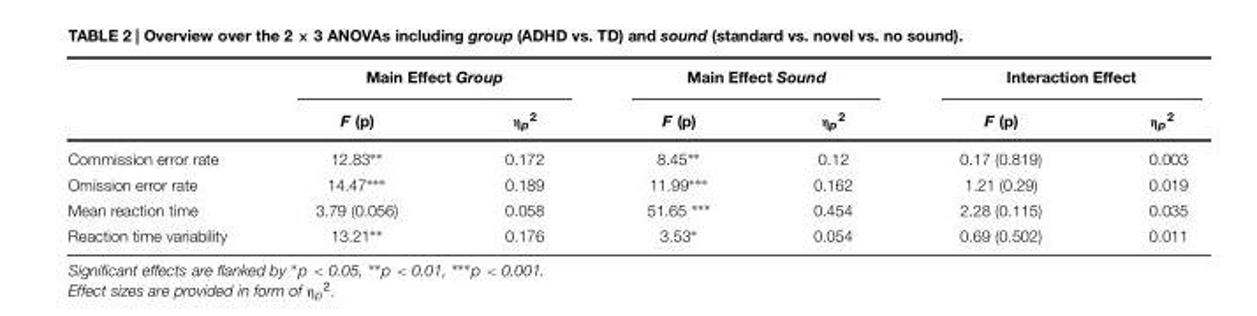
<table><thead><tr><td rowspan="2"></td><td colspan="2">Main Effect Group</td><td colspan="2">Main Effect Sound</td><td colspan="2">Interaction Effect</td></tr><tr><td>F (p)</td><td>η<sub>p</sub><sup>2</sup></td><td>F (p)</td><td>η<sub>p</sub><sup>2</sup></td><td>F (p)</td><td>η<sub>p</sub><sup>2</sup></td></tr></thead><tbody><tr><td>Commission error rate</td><td>12.83∗∗</td><td>0.172</td><td>8.45∗∗</td><td>0.12</td><td>0.17 (0.819)</td><td>0.003</td></tr><tr><td>Omission error rate</td><td>14.47∗∗∗</td><td>0.189</td><td>11.99∗∗∗</td><td>0.162</td><td>1.21 (0.29)</td><td>0.019</td></tr><tr><td>Mean reaction time</td><td>3.79 (0.056)</td><td>0.058</td><td>51.65 ∗∗∗</td><td>0.454</td><td>2.28 (0.115)</td><td>0.035</td></tr><tr><td>Reaction time variability</td><td>13.21∗∗</td><td>0.176</td><td>3.53∗</td><td>0.054</td><td>0.69 (0.502)</td><td>0.011</td></tr></tbody></table>